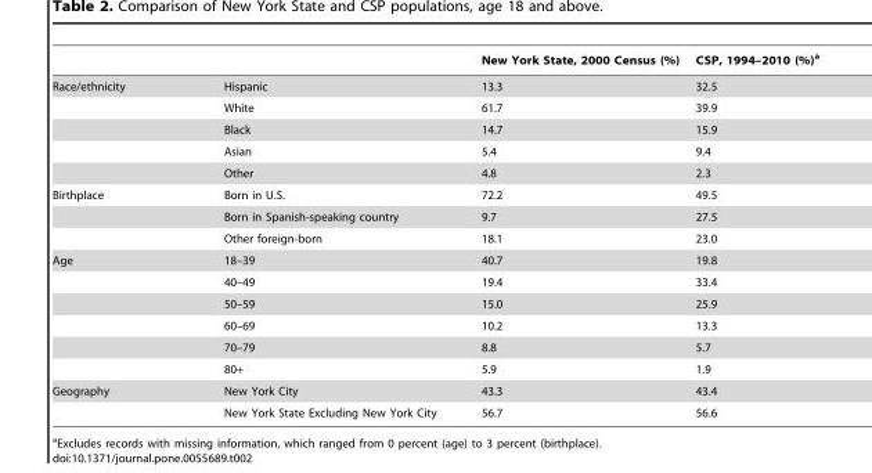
<table><thead><tr><td></td><td></td><td>New York State, 2000 Census (%)</td><td>CSP, 1994–2010 (%)<sup>a</sup></td></tr></thead><tbody><tr><td rowspan="5">Race/ethnicity</td><td>Hispanic</td><td>13.3</td><td>32.5</td></tr><tr><td>White</td><td>61.7</td><td>39.9</td></tr><tr><td>Black</td><td>14.7</td><td>15.9</td></tr><tr><td>Asian</td><td>5.4</td><td>9.4</td></tr><tr><td>Other</td><td>4.8</td><td>2.3</td></tr><tr><td rowspan="3">Birthplace</td><td>Born in U.S.</td><td>72.2</td><td>49.5</td></tr><tr><td>Born in Spanish-speaking country</td><td>9.7</td><td>27.5</td></tr><tr><td>Other foreign-born</td><td>18.1</td><td>23.0</td></tr><tr><td rowspan="6">Age</td><td>18–39</td><td>40.7</td><td>19.8</td></tr><tr><td>40–49</td><td>19.4</td><td>33.4</td></tr><tr><td>50–59</td><td>15.0</td><td>25.9</td></tr><tr><td>60–69</td><td>10.2</td><td>13.3</td></tr><tr><td>70–79</td><td>8.8</td><td>5.7</td></tr><tr><td>80+</td><td>5.9</td><td>1.9</td></tr><tr><td rowspan="2">Geography</td><td>New York City</td><td>43.3</td><td>43.4</td></tr><tr><td>New York State Excluding New York City</td><td>56.7</td><td>56.6</td></tr></tbody></table>